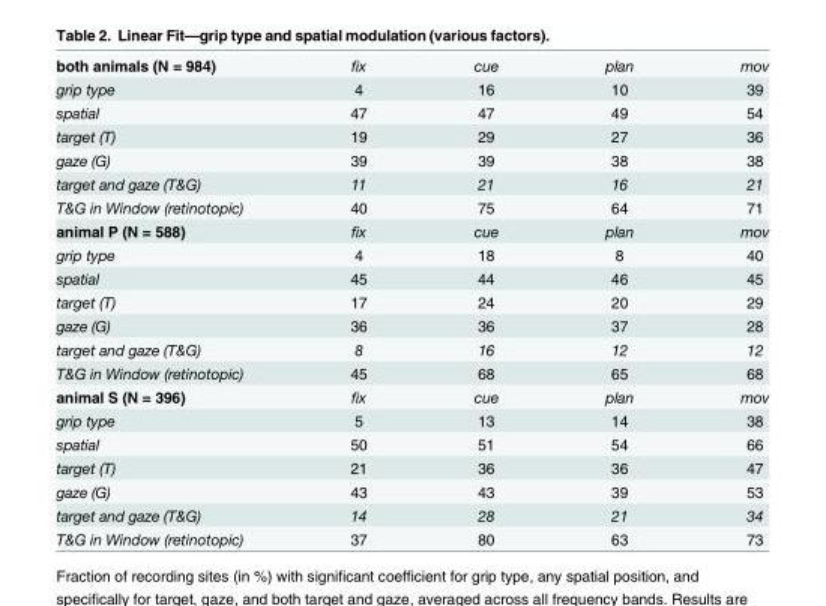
<table><tbody><tr><td>both animals (N = 984)</td><td>fix</td><td>cue</td><td>plan</td><td>mov</td></tr><tr><td>grip type</td><td>4</td><td>16</td><td>10</td><td>39</td></tr><tr><td>spatial</td><td>47</td><td>47</td><td>49</td><td>54</td></tr><tr><td>target (T)</td><td>19</td><td>29</td><td>27</td><td>36</td></tr><tr><td>gaze (G)</td><td>39</td><td>39</td><td>38</td><td>38</td></tr><tr><td>target and gaze (T&amp;G)</td><td>11</td><td>21</td><td>16</td><td>21</td></tr><tr><td>T&amp;G in Window (retinotopic)</td><td>40</td><td>75</td><td>64</td><td>71</td></tr><tr><td>animal P (N = 588)</td><td>fix</td><td>cue</td><td>plan</td><td>mov</td></tr><tr><td>grip type</td><td>4</td><td>18</td><td>8</td><td>40</td></tr><tr><td>spatial</td><td>45</td><td>44</td><td>46</td><td>45</td></tr><tr><td>target (T)</td><td>17</td><td>24</td><td>20</td><td>29</td></tr><tr><td>gaze (G)</td><td>36</td><td>36</td><td>37</td><td>28</td></tr><tr><td>target and gaze (T&amp;G)</td><td>8</td><td>16</td><td>12</td><td>12</td></tr><tr><td>T&amp;G in Window (retinotopic)</td><td>45</td><td>68</td><td>65</td><td>68</td></tr><tr><td>animal S (N = 396)</td><td>fix</td><td>cue</td><td>plan</td><td>mov</td></tr><tr><td>grip type</td><td>5</td><td>13</td><td>14</td><td>38</td></tr><tr><td>spatial</td><td>50</td><td>51</td><td>54</td><td>66</td></tr><tr><td>target (T)</td><td>21</td><td>36</td><td>36</td><td>47</td></tr><tr><td>gaze (G)</td><td>43</td><td>43</td><td>39</td><td>53</td></tr><tr><td>target and gaze (T&amp;G)</td><td>14</td><td>28</td><td>21</td><td>34</td></tr><tr><td>T&amp;G in Window (retinotopic)</td><td>37</td><td>80</td><td>63</td><td>73</td></tr></tbody></table>